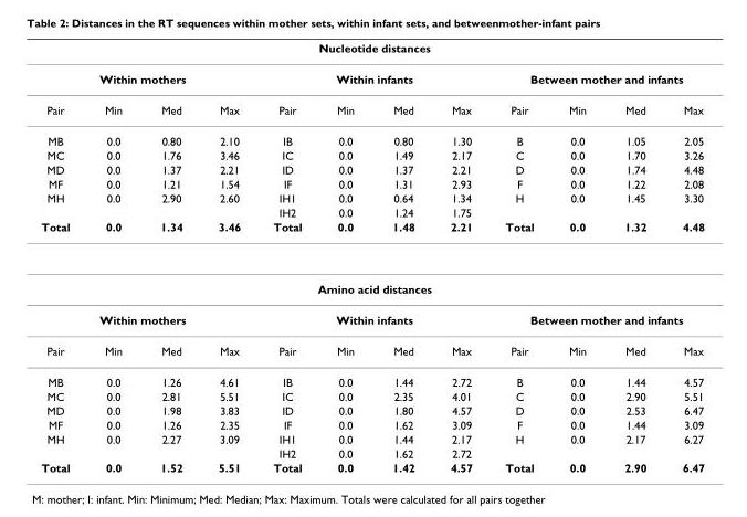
<table><thead><tr><td colspan="12">Nucleotide distances</td></tr><tr><td colspan="4">Within mothers</td><td colspan="4">Within infants</td><td colspan="4">Between mother and infants</td></tr><tr><td>Pair</td><td>Min</td><td>Med</td><td>Max</td><td>Pair</td><td>Min</td><td>Med</td><td>Max</td><td>Pair</td><td>Min</td><td>Med</td><td>Max</td></tr></thead><tbody><tr><td>MB</td><td>0.0</td><td>0.80</td><td>2.10</td><td>IB</td><td>0.0</td><td>0.80</td><td>1.30</td><td>B</td><td>0.0</td><td>1.05</td><td>2.05</td></tr><tr><td>MC</td><td>0.0</td><td>1.76</td><td>3.46</td><td>IC</td><td>0.0</td><td>1.49</td><td>2.17</td><td>C</td><td>0.0</td><td>1.70</td><td>3.26</td></tr><tr><td>MD</td><td>0.0</td><td>1.37</td><td>2.21</td><td>ID</td><td>0.0</td><td>1.37</td><td>2.21</td><td>D</td><td>0.0</td><td>1.74</td><td>4.48</td></tr><tr><td>MF</td><td>0.0</td><td>1.21</td><td>1.54</td><td>IF</td><td>0.0</td><td>1.31</td><td>2.93</td><td>F</td><td>0.0</td><td>1.22</td><td>2.08</td></tr><tr><td rowspan="2">MH</td><td>0.0</td><td>2.90</td><td>2.60</td><td>IH1</td><td>0.0</td><td>0.64</td><td>1.34</td><td>H</td><td>0.0</td><td>1.45</td><td>3.30</td></tr><tr><td></td><td></td><td></td><td>IH2</td><td>0.0</td><td>1.24</td><td>1.75</td><td></td><td></td><td></td><td></td></tr><tr><td>Total</td><td>0.0</td><td>1.34</td><td>3.46</td><td>Total</td><td>0.0</td><td>1.48</td><td>2.21</td><td>Total</td><td>0.0</td><td>1.32</td><td>4.48</td></tr><tr><td colspan="12">Amino acid distances</td></tr><tr><td colspan="4">Within mothers</td><td colspan="4">Within infants</td><td colspan="4">Between mother and infants</td></tr><tr><td>Pair</td><td>Min</td><td>Med</td><td>Max</td><td>Pair</td><td>Min</td><td>Med</td><td>Max</td><td>Pair</td><td>Min</td><td>Med</td><td>Max</td></tr><tr><td>MB</td><td>0.0</td><td>1.26</td><td>4.61</td><td>IB</td><td>0.0</td><td>1.44</td><td>2.72</td><td>B</td><td>0.0</td><td>1.44</td><td>4.57</td></tr><tr><td>MC</td><td>0.0</td><td>2.81</td><td>5.51</td><td>IC</td><td>0.0</td><td>2.35</td><td>4.01</td><td>C</td><td>0.0</td><td>2.90</td><td>5.51</td></tr><tr><td>MD</td><td>0.0</td><td>1.98</td><td>3.83</td><td>ID</td><td>0.0</td><td>1.80</td><td>4.57</td><td>D</td><td>0.0</td><td>2.53</td><td>6.47</td></tr><tr><td>MF</td><td>0.0</td><td>1.26</td><td>2.35</td><td>IF</td><td>0.0</td><td>1.62</td><td>3.09</td><td>F</td><td>0.0</td><td>1.44</td><td>3.09</td></tr><tr><td rowspan="2">MH</td><td>0.0</td><td>2.27</td><td>3.09</td><td>IH1</td><td>0.0</td><td>1.44</td><td>2.17</td><td>H</td><td>0.0</td><td>2.17</td><td>6.27</td></tr><tr><td></td><td></td><td></td><td>IH2</td><td>0.0</td><td>1.62</td><td>2.72</td><td></td><td></td><td></td><td></td></tr><tr><td>Total</td><td>0.0</td><td>1.52</td><td>5.51</td><td>Total</td><td>0.0</td><td>1.42</td><td>4.57</td><td>Total</td><td>0.0</td><td>2.90</td><td>6.47</td></tr></tbody></table>